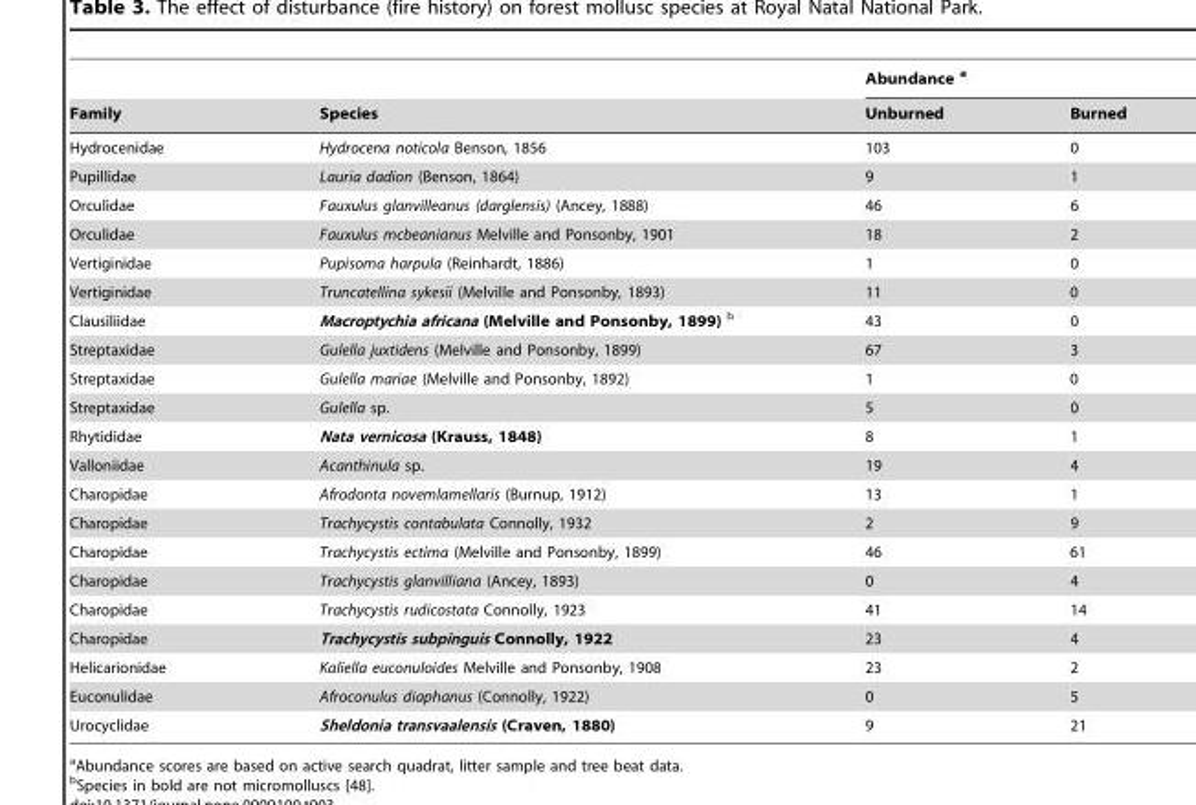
<table><thead><tr><td rowspan="2">Family</td><td rowspan="2">Species</td><td colspan="2">Abundance a</td></tr><tr><td>Unburned</td><td>Burned</td></tr></thead><tbody><tr><td>Hydrocenidae</td><td>Hydrocena noticola Benson, 1856</td><td>103</td><td>0</td></tr><tr><td>Pupillidae</td><td>Lauria dadion (Benson, 1864)</td><td>9</td><td>1</td></tr><tr><td>Orculidae</td><td>Fauxulus glanvilleanus (darglensis) (Ancey, 1888)</td><td>46</td><td>6</td></tr><tr><td>Orculidae</td><td>Fauxulus mcbeanianus Melville and Ponsonby, 1901</td><td>18</td><td>2</td></tr><tr><td>Vertiginidae</td><td>Pupisoma harpula (Reinhardt, 1886)</td><td>1</td><td>0</td></tr><tr><td>Vertiginidae</td><td>Truncatellina sykesii (Melville and Ponsonby, 1893)</td><td>11</td><td>0</td></tr><tr><td>Clausiliidae</td><td>Macroptychia africana (Melville and Ponsonby, 1899) b</td><td>43</td><td>0</td></tr><tr><td>Streptaxidae</td><td>Gulella juxtidens (Melville and Ponsonby, 1899)</td><td>67</td><td>3</td></tr><tr><td>Streptaxidae</td><td>Gulella mariae (Melville and Ponsonby, 1892)</td><td>1</td><td>0</td></tr><tr><td>Streptaxidae</td><td>Gulella sp.</td><td>5</td><td>0</td></tr><tr><td>Rhytididae</td><td>Nata vernicosa (Krauss, 1848)</td><td>8</td><td>1</td></tr><tr><td>Valloniidae</td><td>Acanthinula sp.</td><td>19</td><td>4</td></tr><tr><td>Charopidae</td><td>Afrodonta novemlamellaris (Burnup, 1912)</td><td>13</td><td>1</td></tr><tr><td>Charopidae</td><td>Trachycystis contabulata Connolly, 1932</td><td>2</td><td>9</td></tr><tr><td>Charopidae</td><td>Trachycystis ectima (Melville and Ponsonby, 1899)</td><td>46</td><td>61</td></tr><tr><td>Charopidae</td><td>Trachycystis glanvilliana (Ancey, 1893)</td><td>0</td><td>4</td></tr><tr><td>Charopidae</td><td>Trachycystis rudicostata Connolly, 1923</td><td>41</td><td>14</td></tr><tr><td>Charopidae</td><td>Trachycystis subpinguis Connolly, 1922</td><td>23</td><td>4</td></tr><tr><td>Helicarionidae</td><td>Kaliella euconuloides Melville and Ponsonby, 1908</td><td>23</td><td>2</td></tr><tr><td>Euconulidae</td><td>Afroconulus diaphanus (Connolly, 1922)</td><td>0</td><td>5</td></tr><tr><td>Urocyclidae</td><td>Sheldonia transvaalensis (Craven, 1880)</td><td>9</td><td>21</td></tr></tbody></table>